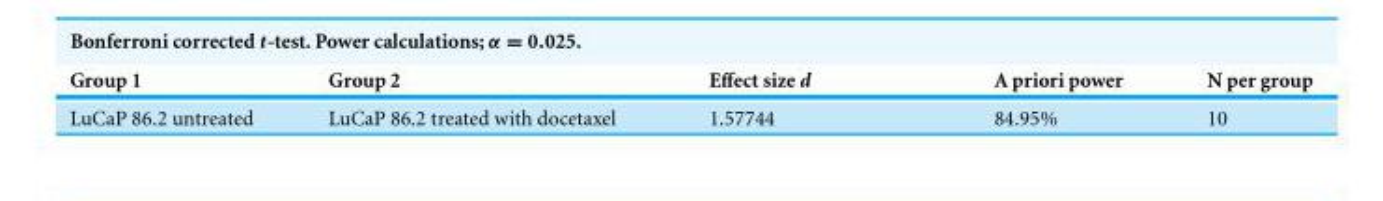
<table><thead><tr><td>Group 1</td><td>Group 2</td><td>Effect size d</td><td>A priori power</td><td>N per group</td></tr></thead><tbody><tr><td>LuCaP 86.2 untreated</td><td>LuCaP 86.2 treated with docetaxel</td><td>1.57744</td><td>84.95%</td><td>10</td></tr></tbody></table>